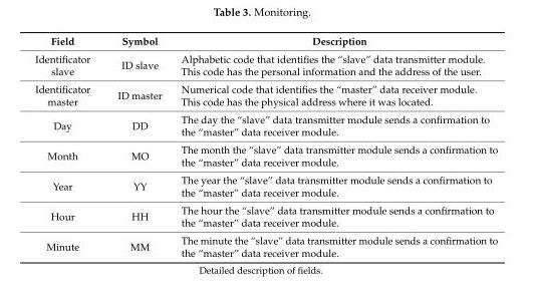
<table><thead><tr><td>Field</td><td>Symbol</td><td>Description</td></tr></thead><tbody><tr><td>Identificator slave</td><td>ID slave</td><td>Alphabetic code that identifies the “slave” data transmitter module. This code has the personal information and the address of the user.</td></tr><tr><td>Identificator master</td><td>ID master</td><td>Numerical code that identifies the “master” data receiver module. This code has the physical address where it was located.</td></tr><tr><td>Day</td><td>DD</td><td>The day the “slave” data transmitter module sends a confirmation to the “master” data receiver module.</td></tr><tr><td>Month</td><td>MO</td><td>The month the “slave” data transmitter module sends a confirmation to the “master” data receiver module.</td></tr><tr><td>Year</td><td>YY</td><td>The year the “slave” data transmitter module sends a confirmation to the “master” data receiver module.</td></tr><tr><td>Hour</td><td>HH</td><td>The hour the “slave” data transmitter module sends a confirmation to the “master” data receiver module.</td></tr><tr><td>Minute</td><td>MM</td><td>The minute the “slave” data transmitter module sends a confirmation to the “master” data receiver module.</td></tr></tbody></table>